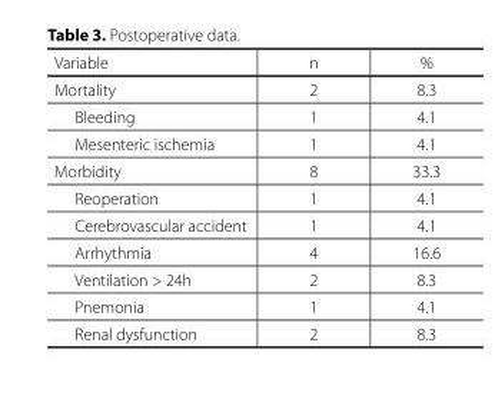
<table><thead><tr><td>Variable</td><td>n</td><td>%</td></tr></thead><tbody><tr><td>Mortality</td><td>2</td><td>8.3</td></tr><tr><td>Bleeding</td><td>1</td><td>4.1</td></tr><tr><td>Mesenteric ischemia</td><td>1</td><td>4.1</td></tr><tr><td>Morbidity</td><td>8</td><td>33.3</td></tr><tr><td>Reoperation</td><td>1</td><td>4.1</td></tr><tr><td>Cerebrovascular accident</td><td>1</td><td>4.1</td></tr><tr><td>Arrhythmia</td><td>4</td><td>16.6</td></tr><tr><td>Ventilation &gt; 24h</td><td>2</td><td>8.3</td></tr><tr><td>Pnemonia</td><td>1</td><td>4.1</td></tr><tr><td>Renal dysfunction</td><td>2</td><td>8.3</td></tr></tbody></table>